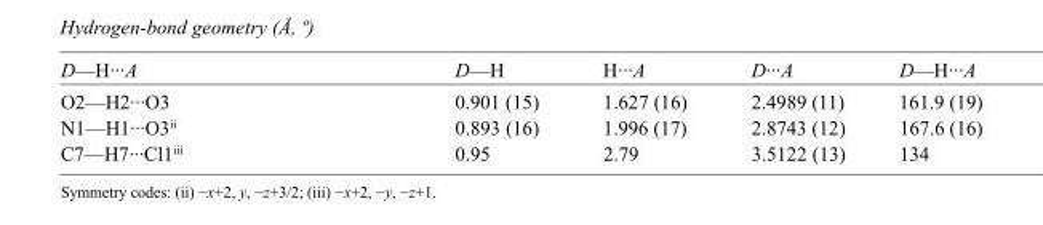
<table><tbody><tr><td>D—H···A</td><td>D—H</td><td>H···A</td><td>D···A</td><td>D—H···A</td></tr><tr><td>O2—H2···O3</td><td>0.901 (15)</td><td>1.627 (16)</td><td>2.4989 (11)</td><td>161.9 (19)</td></tr><tr><td>N1—H1···O3<sup>ii</sup></td><td>0.893 (16)</td><td>1.996 (17)</td><td>2.8743 (12)</td><td>167.6 (16)</td></tr><tr><td>C7—H7···Cl1<sup>iii</sup></td><td>0.95</td><td>2.79</td><td>3.5122 (13)</td><td>134</td></tr></tbody></table>